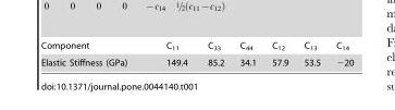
<table><tbody><tr><td>Component</td><td>C<sub>11</sub></td><td>C<sub>33</sub></td><td>C<sub>44</sub></td><td>C<sub>12</sub></td><td>C<sub>13</sub></td><td>C<sub>14</sub></td></tr><tr><td>Elastic Stiffness (GPa)</td><td>149.4</td><td>85.2</td><td>34.1</td><td>57.9</td><td>53.5</td><td>−20</td></tr></tbody></table>